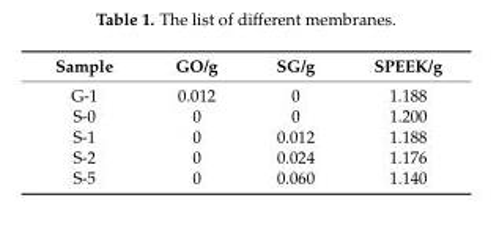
<table><thead><tr><td>Sample</td><td>GO/g</td><td>SG/g</td><td>SPEEK/g</td></tr></thead><tbody><tr><td>G-1</td><td>0.012</td><td>0</td><td>1.188</td></tr><tr><td>S-0</td><td>0</td><td>0</td><td>1.200</td></tr><tr><td>S-1</td><td>0</td><td>0.012</td><td>1.188</td></tr><tr><td>S-2</td><td>0</td><td>0.024</td><td>1.176</td></tr><tr><td>S-5</td><td>0</td><td>0.060</td><td>1.140</td></tr></tbody></table>